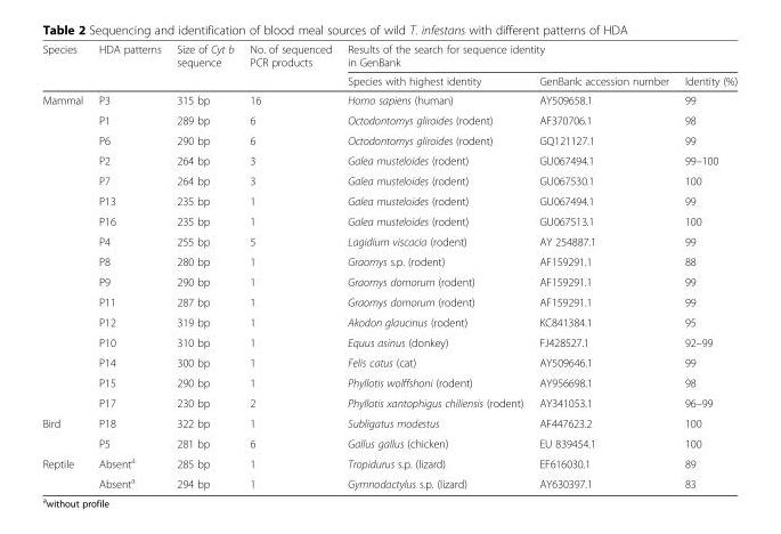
<table><thead><tr><td rowspan="2">Species</td><td rowspan="2">HDA patterns</td><td rowspan="2">Size of Cyt b sequence</td><td rowspan="2">No. of sequenced PCR products</td><td colspan="3">Results of the search for sequence identity in GenBank</td></tr><tr><td>Species with highest identity</td><td>GenBank: accession number</td><td>Identity (%)</td></tr></thead><tbody><tr><td rowspan="16">Mammal</td><td>P3</td><td>315 bp</td><td>16</td><td>Homo sapiens (human)</td><td>AY509658.1</td><td>99</td></tr><tr><td>P1</td><td>289 bp</td><td>6</td><td>Octodontomys gliroides (rodent)</td><td>AF370706.1</td><td>98</td></tr><tr><td>P6</td><td>290 bp</td><td>6</td><td>Octodontomys gliroides (rodent)</td><td>GQ121127.1</td><td>99</td></tr><tr><td>P2</td><td>264 bp</td><td>3</td><td>Galea musteloides (rodent)</td><td>GU067494.1</td><td>99–100</td></tr><tr><td>P7</td><td>264 bp</td><td>3</td><td>Galea musteloides (rodent)</td><td>GU067530.1</td><td>100</td></tr><tr><td>P13</td><td>235 bp</td><td>1</td><td>Galea musteloides (rodent)</td><td>GU067494.1</td><td>99</td></tr><tr><td>P16</td><td>235 bp</td><td>1</td><td>Galea musteloides (rodent)</td><td>GU067513.1</td><td>100</td></tr><tr><td>P4</td><td>255 bp</td><td>5</td><td>Lagidium viscacia (rodent)</td><td>AY 254887.1</td><td>99</td></tr><tr><td>P8</td><td>280 bp</td><td>1</td><td>Graomys s.p. (rodent)</td><td>AF159291.1</td><td>88</td></tr><tr><td>P9</td><td>290 bp</td><td>1</td><td>Graomys domorum (rodent)</td><td>AF159291.1</td><td>99</td></tr><tr><td>P11</td><td>287 bp</td><td>1</td><td>Graomys domorum (rodent)</td><td>AF159291.1</td><td>99</td></tr><tr><td>P12</td><td>319 bp</td><td>1</td><td>Akodon glaucinus (rodent)</td><td>KC841384.1</td><td>95</td></tr><tr><td>P10</td><td>310 bp</td><td>1</td><td>Equus asinus (donkey)</td><td>FJ428527.1</td><td>92–99</td></tr><tr><td>P14</td><td>300 bp</td><td>1</td><td>Felis catus (cat)</td><td>AY509646.1</td><td>99</td></tr><tr><td>P15</td><td>290 bp</td><td>1</td><td>Phyllotis wolffshoni (rodent)</td><td>AY956698.1</td><td>98</td></tr><tr><td>P17</td><td>230 bp</td><td>2</td><td>Phyllotis xantophigus chiliensis (rodent)</td><td>AY341053.1</td><td>96–99</td></tr><tr><td rowspan="2">Bird</td><td>P18</td><td>322 bp</td><td>1</td><td>Subligatus modestus</td><td>AF447623.2</td><td>100</td></tr><tr><td>P5</td><td>281 bp</td><td>6</td><td>Gallus gallus (chicken)</td><td>EU 839454.1</td><td>100</td></tr><tr><td rowspan="2">Reptile</td><td>Absent<sup>a</sup></td><td>285 bp</td><td>1</td><td>Tropidurus s.p. (lizard)</td><td>EF616030.1</td><td>89</td></tr><tr><td>Absent<sup>a</sup></td><td>294 bp</td><td>1</td><td>Gymnodactylus s.p. (lizard)</td><td>AY630397.1</td><td>83</td></tr></tbody></table>